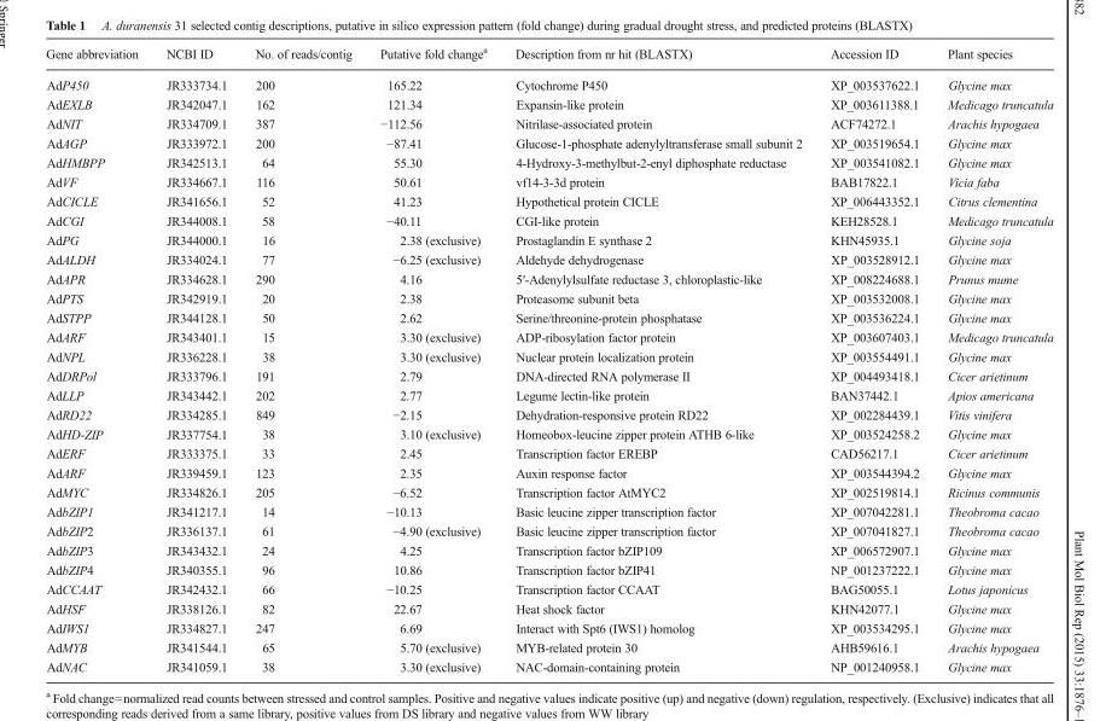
<table><thead><tr><td>Gene abbreviation</td><td>NCBI ID</td><td>No. of reads/contig</td><td>Putative fold change<sup>a</sup></td><td>Description from nr hit (BLASTX)</td><td>Accession ID</td><td>Plant species</td></tr></thead><tbody><tr><td>AdP450</td><td>JR333734.1</td><td>200</td><td>165.22</td><td>Cytochrome P450</td><td>XP_003537622.1</td><td>Glycine max</td></tr><tr><td>AdEXLB</td><td>JR342047.1</td><td>162</td><td>121.34</td><td>Expansin-like protein</td><td>XP_003611388.1</td><td>Medicago truncatula</td></tr><tr><td>AdNIT</td><td>JR334709.1</td><td>387</td><td>−112.56</td><td>Nitrilase-associated protein</td><td>ACF74272.1</td><td>Arachis hypogaea</td></tr><tr><td>AdAGP</td><td>JR333972.1</td><td>200</td><td>−87.41</td><td>Glucose-1-phosphate adenylyltransferase small subunit 2</td><td>XP_003519654.1</td><td>Glycine max</td></tr><tr><td>AdHMBPP</td><td>JR342513.1</td><td>64</td><td>55.30</td><td>4-Hydroxy-3-methylbut-2-enyl diphosphate reductase</td><td>XP_003541082.1</td><td>Glycine max</td></tr><tr><td>AdVF</td><td>JR334667.1</td><td>116</td><td>50.61</td><td>vf14-3-3d protein</td><td>BAB17822.1</td><td>Vicia faba</td></tr><tr><td>AdCICLE</td><td>JR341656.1</td><td>52</td><td>41.23</td><td>Hypothetical protein CICLE</td><td>XP_006443352.1</td><td>Citrus clementina</td></tr><tr><td>AdCGI</td><td>JR344008.1</td><td>58</td><td>−40.11</td><td>CGI-like protein</td><td>KEH28528.1</td><td>Medicago truncatula</td></tr><tr><td>AdPG</td><td>JR344000.1</td><td>16</td><td>2.38 (exclusive)</td><td>Prostaglandin E synthase 2</td><td>KHN45935.1</td><td>Glycine soja</td></tr><tr><td>AdALDH</td><td>JR334024.1</td><td>77</td><td>−6.25 (exclusive)</td><td>Aldehyde dehydrogenase</td><td>XP_003528912.1</td><td>Glycine max</td></tr><tr><td>AdAPR</td><td>JR334628.1</td><td>290</td><td>4.16</td><td>5′-Adenylylsulfate reductase 3, chloroplastic-like</td><td>XP_008224688.1</td><td>Prunus mume</td></tr><tr><td>AdPTS</td><td>JR342919.1</td><td>20</td><td>2.38</td><td>Proteasome subunit beta</td><td>XP_003532008.1</td><td>Glycine max</td></tr><tr><td>AdSTPP</td><td>JR344128.1</td><td>50</td><td>2.62</td><td>Serine/threonine-protein phosphatase</td><td>XP_003536224.1</td><td>Glycine max</td></tr><tr><td>AdARF</td><td>JR343401.1</td><td>15</td><td>3.30 (exclusive)</td><td>ADP-ribosylation factor protein</td><td>XP_003607403.1</td><td>Medicago truncatula</td></tr><tr><td>AdNPL</td><td>JR336228.1</td><td>38</td><td>3.30 (exclusive)</td><td>Nuclear protein localization protein</td><td>XP_003554491.1</td><td>Glycine max</td></tr><tr><td>AdDRPol</td><td>JR333796.1</td><td>191</td><td>2.79</td><td>DNA-directed RNA polymerase II</td><td>XP_004493418.1</td><td>Cicer arietinum</td></tr><tr><td>AdLLP</td><td>JR343442.1</td><td>202</td><td>2.77</td><td>Legume lectin-like protein</td><td>BAN37442.1</td><td>Apios americana</td></tr><tr><td>AdRD22</td><td>JR334285.1</td><td>849</td><td>−2.15</td><td>Dehydration-responsive protein RD22</td><td>XP_002284439.1</td><td>Vitis vinifera</td></tr><tr><td>AdHD-ZIP</td><td>JR337754.1</td><td>38</td><td>3.10 (exclusive)</td><td>Homeobox-leucine zipper protein ATHB 6-like</td><td>XP_003524258.2</td><td>Glycine max</td></tr><tr><td>AdERF</td><td>JR333375.1</td><td>33</td><td>2.45</td><td>Transcription factor EREBP</td><td>CAD56217.1</td><td>Cicer arietinum</td></tr><tr><td>AdARF</td><td>JR339459.1</td><td>123</td><td>2.35</td><td>Auxin response factor</td><td>XP_003544394.2</td><td>Glycine max</td></tr><tr><td>AdMYC</td><td>JR334826.1</td><td>205</td><td>−6.52</td><td>Transcription factor AtMYC2</td><td>XP_002519814.1</td><td>Ricinus communis</td></tr><tr><td>AdbZIP1</td><td>JR341217.1</td><td>14</td><td>−10.13</td><td>Basic leucine zipper transcription factor</td><td>XP_007042281.1</td><td>Theobroma cacao</td></tr><tr><td>AdbZIP2</td><td>JR336137.1</td><td>61</td><td>−4.90 (exclusive)</td><td>Basic leucine zipper transcription factor</td><td>XP_007041827.1</td><td>Theobroma cacao</td></tr><tr><td>AdbZIP3</td><td>JR343432.1</td><td>24</td><td>4.25</td><td>Transcription factor bZIP109</td><td>XP_006572907.1</td><td>Glycine max</td></tr><tr><td>AdbZIP4</td><td>JR340355.1</td><td>96</td><td>10.86</td><td>Transcription factor bZIP41</td><td>NP_001237222.1</td><td>Glycine max</td></tr><tr><td>AdCCAAT</td><td>JR342432.1</td><td>66</td><td>−10.25</td><td>Transcription factor CCAAT</td><td>BAG50055.1</td><td>Lotus japonicus</td></tr><tr><td>AdHSF</td><td>JR338126.1</td><td>82</td><td>22.67</td><td>Heat shock factor</td><td>KHN42077.1</td><td>Glycine max</td></tr><tr><td>AdIWS1</td><td>JR334827.1</td><td>247</td><td>6.69</td><td>Interact with Spt6 (IWS1) homolog</td><td>XP_003534295.1</td><td>Glycine max</td></tr><tr><td>AdMYB</td><td>JR341544.1</td><td>65</td><td>5.70 (exclusive)</td><td>MYB-related protein 30</td><td>AHB59616.1</td><td>Arachis hypogaea</td></tr><tr><td>AdNAC</td><td>JR341059.1</td><td>38</td><td>3.30 (exclusive)</td><td>NAC-domain-containing protein</td><td>NP_001240958.1</td><td>Glycine max</td></tr></tbody></table>